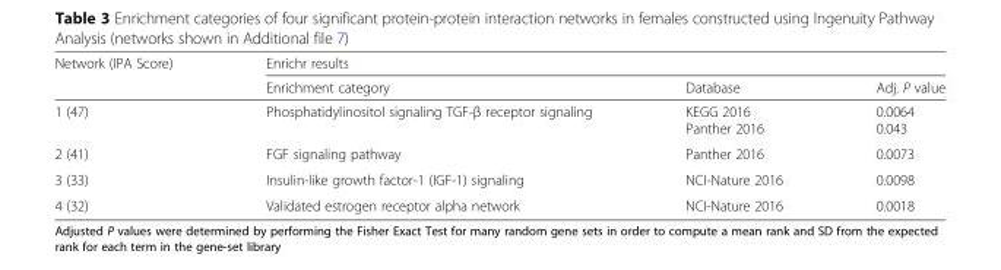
<table><thead><tr><td rowspan="2">Network (IPA Score)</td><td colspan="3">Enrichr results</td></tr><tr><td>Enrichment category</td><td>Database</td><td>Adj. P value</td></tr></thead><tbody><tr><td>1 (47)</td><td>Phosphatidylinositol signaling TGF-β receptor signaling</td><td>KEGG 2016 Panther 2016</td><td>0.0064 0.043</td></tr><tr><td>2 (41)</td><td>FGF signaling pathway</td><td>Panther 2016</td><td>0.0073</td></tr><tr><td>3 (33)</td><td>Insulin-like growth factor-1 (IGF-1) signaling</td><td>NCI-Nature 2016</td><td>0.0098</td></tr><tr><td>4 (32)</td><td>Validated estrogen receptor alpha network</td><td>NCI-Nature 2016</td><td>0.0018</td></tr></tbody></table>